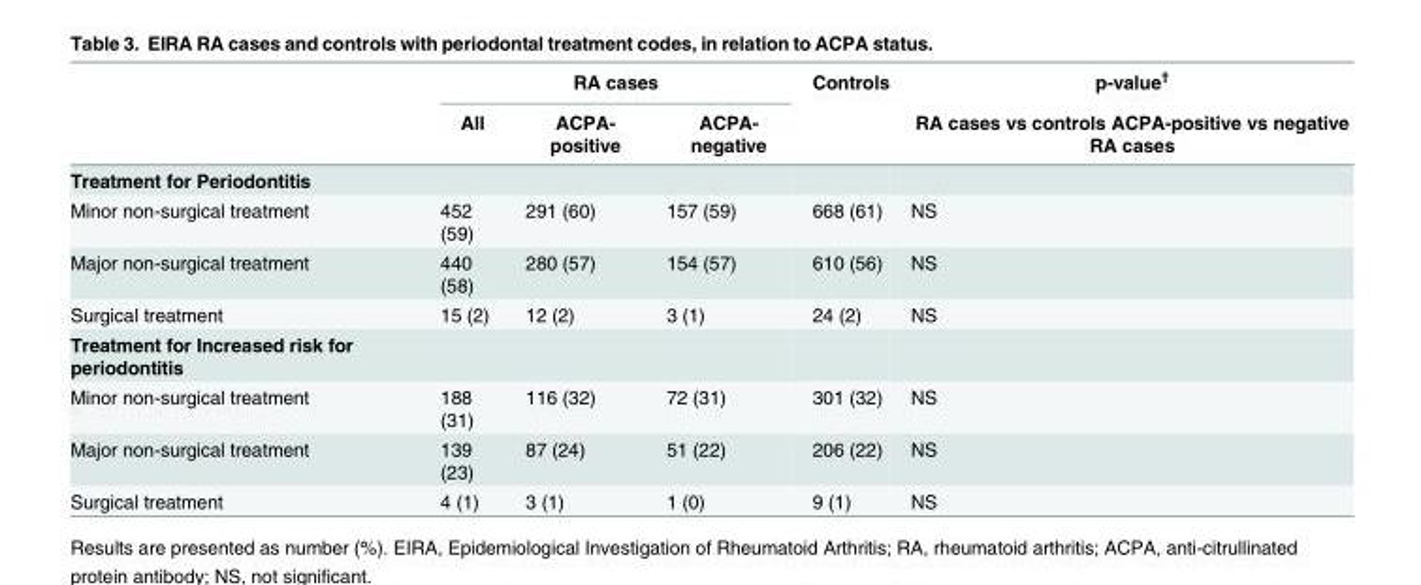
<table><thead><tr><td rowspan="2"></td><td colspan="3">RA cases</td><td rowspan="2">Controls</td><td rowspan="2">p-value<sup>†</sup> RA cases vs controls ACPA-positive vs negative RA cases</td></tr><tr><td>All</td><td>ACPA- positive</td><td>ACPA- negative</td></tr></thead><tbody><tr><td colspan="6">Treatment for Periodontitis</td></tr><tr><td>Minor non-surgical treatment</td><td>452 (59)</td><td>291 (60)</td><td>157 (59)</td><td>668 (61)</td><td>NS</td></tr><tr><td>Major non-surgical treatment</td><td>440 (58)</td><td>280 (57)</td><td>154 (57)</td><td>610 (56)</td><td>NS</td></tr><tr><td>Surgical treatment</td><td>15 (2)</td><td>12 (2)</td><td>3 (1)</td><td>24 (2)</td><td>NS</td></tr><tr><td colspan="6">Treatment for Increased risk for periodontitis</td></tr><tr><td>Minor non-surgical treatment</td><td>188 (31)</td><td>116 (32)</td><td>72 (31)</td><td>301 (32)</td><td>NS</td></tr><tr><td>Major non-surgical treatment</td><td>139 (23)</td><td>87 (24)</td><td>51 (22)</td><td>206 (22)</td><td>NS</td></tr><tr><td>Surgical treatment</td><td>4 (1)</td><td>3 (1)</td><td>1 (0)</td><td>9 (1)</td><td>NS</td></tr></tbody></table>